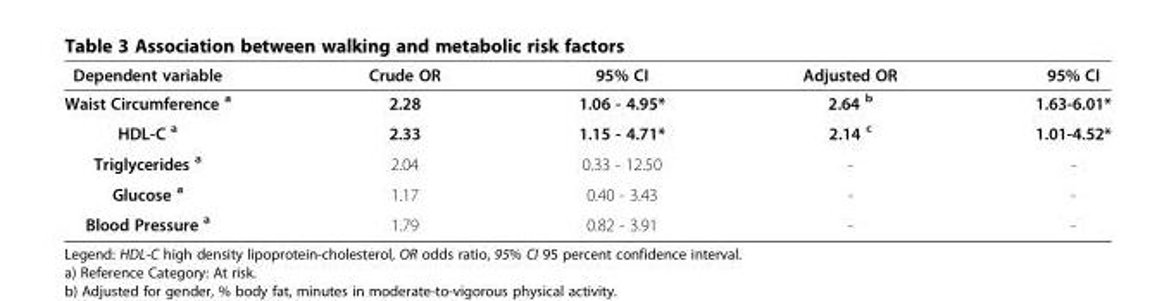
<table><thead><tr><td>Dependent variable</td><td>Crude OR</td><td>95% CI</td><td>Adjusted OR</td><td>95% CI</td></tr></thead><tbody><tr><td>Waist Circumference <sup>a</sup></td><td>2.28</td><td>1.06 - 4.95*</td><td>2.64 <sup>b</sup></td><td>1.63-6.01*</td></tr><tr><td>HDL-C <sup>a</sup></td><td>2.33</td><td>1.15 - 4.71*</td><td>2.14 <sup>c</sup></td><td>1.01-4.52*</td></tr><tr><td>Triglycerides <sup>a</sup></td><td>2.04</td><td>0.33 - 12.50</td><td>-</td><td>-</td></tr><tr><td>Glucose <sup>a</sup></td><td>1.17</td><td>0.40 - 3.43</td><td>-</td><td>-</td></tr><tr><td>Blood Pressure <sup>a</sup></td><td>1.79</td><td>0.82 - 3.91</td><td>-</td><td>-</td></tr></tbody></table>